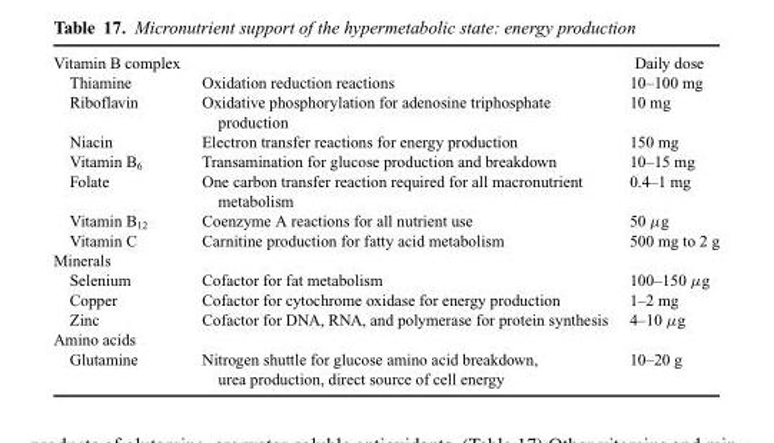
<table><tbody><tr><td>Vitamin B complex</td><td></td><td>Daily dose</td></tr><tr><td>Thiamine</td><td>Oxidation reduction reactions</td><td>10–100 mg</td></tr><tr><td>Riboflavin</td><td>Oxidative phosphorylation for adenosine triphosphate production</td><td>10 mg</td></tr><tr><td>Niacin</td><td>Electron transfer reactions for energy production</td><td>150 mg</td></tr><tr><td>Vitamin B<sub>6</sub></td><td>Transamination for glucose production and breakdown</td><td>10–15 mg</td></tr><tr><td>Folate</td><td>One carbon transfer reaction required for all macronutrient metabolism</td><td>0.4–1 mg</td></tr><tr><td>Vitamin B<sub>12</sub></td><td>Coenzyme A reactions for all nutrient use</td><td>50 μg</td></tr><tr><td>Vitamin C</td><td>Carnitine production for fatty acid metabolism</td><td>500 mg to 2 g</td></tr><tr><td colspan="3">Minerals</td></tr><tr><td>Selenium</td><td>Cofactor for fat metabolism</td><td>100–150 μg</td></tr><tr><td>Copper</td><td>Cofactor for cytochrome oxidase for energy production</td><td>1–2 mg</td></tr><tr><td>Zinc</td><td>Cofactor for DNA, RNA, and polymerase for protein synthesis</td><td>4–10 μg</td></tr><tr><td colspan="3">Amino acids</td></tr><tr><td>Glutamine</td><td>Nitrogen shuttle for glucose amino acid breakdown, urea production, direct source of cell energy</td><td>10–20 g</td></tr></tbody></table>